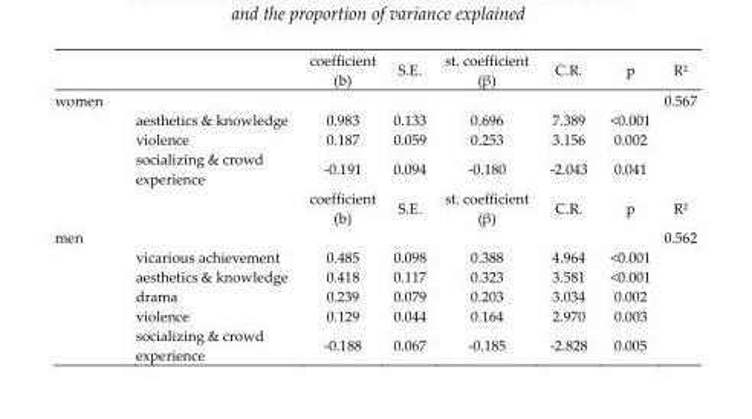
<table><thead><tr><td></td><td></td><td>coefficient (b)</td><td>S.E.</td><td>st. coefficient (β)</td><td>C.R.</td><td>p</td><td>R²</td></tr></thead><tbody><tr><td rowspan="5">women</td><td></td><td></td><td></td><td></td><td></td><td></td><td>0.567</td></tr><tr><td>aesthetics &amp; knowledge</td><td>0.983</td><td>0.133</td><td>0.696</td><td>7.389</td><td>&lt;0.001</td><td></td></tr><tr><td>violence</td><td>0.187</td><td>0.059</td><td>0.253</td><td>3.156</td><td>0.002</td><td></td></tr><tr><td>socializing &amp; crowd experience</td><td>-0.191</td><td>0.094</td><td>-0.180</td><td>-2.043</td><td>0.041</td><td></td></tr><tr><td></td><td>coefficient (b)</td><td>S.E.</td><td>st. coefficient (β)</td><td>C.R.</td><td>p</td><td>R²</td></tr><tr><td rowspan="6">men</td><td></td><td></td><td></td><td></td><td></td><td></td><td>0.562</td></tr><tr><td>vicarious achievement</td><td>0.485</td><td>0.098</td><td>0.388</td><td>4.964</td><td>&lt;0.001</td><td></td></tr><tr><td>aesthetics &amp; knowledge</td><td>0.418</td><td>0.117</td><td>0.323</td><td>3.581</td><td>&lt;0.001</td><td></td></tr><tr><td>drama</td><td>0.239</td><td>0.079</td><td>0.203</td><td>3.034</td><td>0.002</td><td></td></tr><tr><td>violence</td><td>0.129</td><td>0.044</td><td>0.164</td><td>2.970</td><td>0.003</td><td></td></tr><tr><td>socializing &amp; crowd experience</td><td>-0.188</td><td>0.067</td><td>-0.185</td><td>-2.828</td><td>0.005</td><td></td></tr></tbody></table>